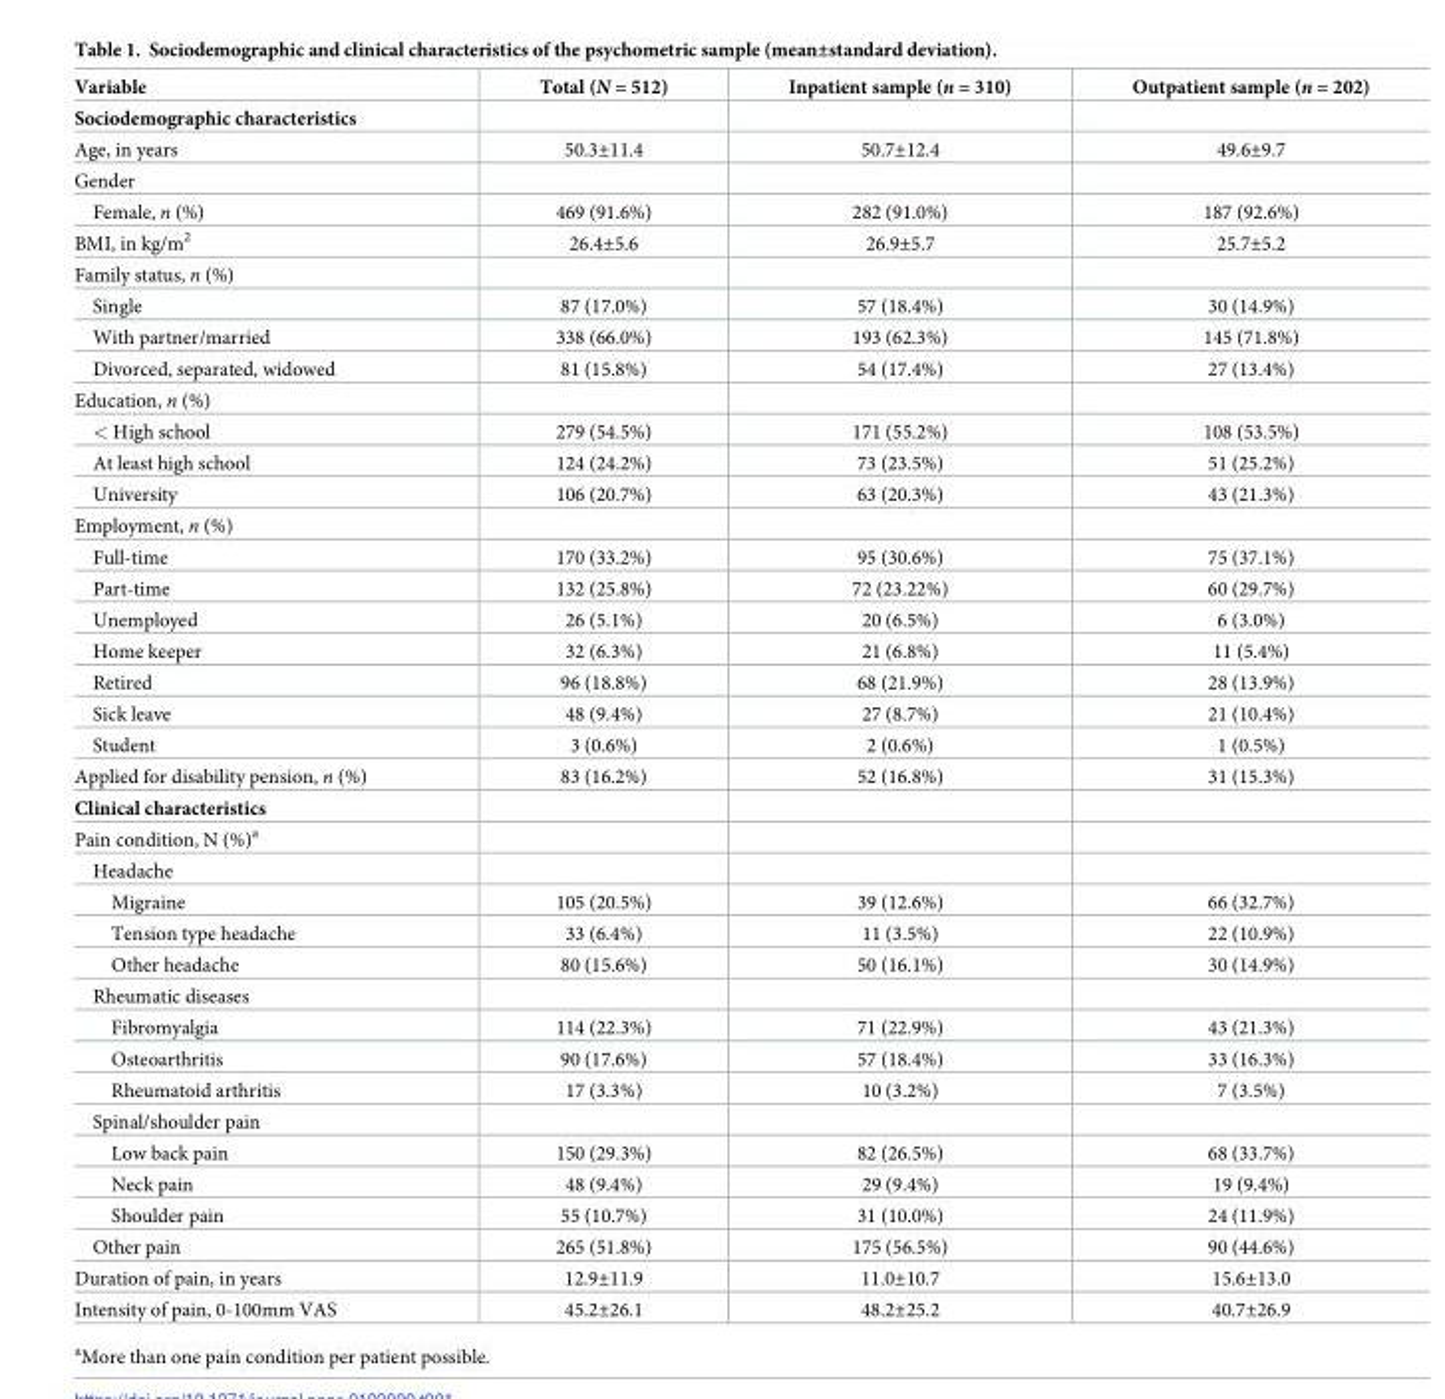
<table><thead><tr><td>Variable</td><td>Total (N = 512)</td><td>Inpatient sample (n = 310)</td><td>Outpatient sample (n = 202)</td></tr></thead><tbody><tr><td colspan="4">Sociodemographic characteristics</td></tr><tr><td>Age, in years</td><td>50.3±11.4</td><td>50.7±12.4</td><td>49.6±9.7</td></tr><tr><td colspan="4">Gender</td></tr><tr><td>Female, n (%)</td><td>469 (91.6%)</td><td>282 (91.0%)</td><td>187 (92.6%)</td></tr><tr><td>BMI, in kg/m<sup>2</sup></td><td>26.4±5.6</td><td>26.9±5.7</td><td>25.7±5.2</td></tr><tr><td colspan="4">Family status, n (%)</td></tr><tr><td>Single</td><td>87 (17.0%)</td><td>57 (18.4%)</td><td>30 (14.9%)</td></tr><tr><td>With partner/married</td><td>338 (66.0%)</td><td>193 (62.3%)</td><td>145 (71.8%)</td></tr><tr><td>Divorced, separated, widowed</td><td>81 (15.8%)</td><td>54 (17.4%)</td><td>27 (13.4%)</td></tr><tr><td colspan="4">Education, n (%)</td></tr><tr><td>&lt; High school</td><td>279 (54.5%)</td><td>171 (55.2%)</td><td>108 (53.5%)</td></tr><tr><td>At least high school</td><td>124 (24.2%)</td><td>73 (23.5%)</td><td>51 (25.2%)</td></tr><tr><td>University</td><td>106 (20.7%)</td><td>63 (20.3%)</td><td>43 (21.3%)</td></tr><tr><td colspan="4">Employment, n (%)</td></tr><tr><td>Full-time</td><td>170 (33.2%)</td><td>95 (30.6%)</td><td>75 (37.1%)</td></tr><tr><td>Part-time</td><td>132 (25.8%)</td><td>72 (23.22%)</td><td>60 (29.7%)</td></tr><tr><td>Unemployed</td><td>26 (5.1%)</td><td>20 (6.5%)</td><td>6 (3.0%)</td></tr><tr><td>Home keeper</td><td>32 (6.3%)</td><td>21 (6.8%)</td><td>11 (5.4%)</td></tr><tr><td>Retired</td><td>96 (18.8%)</td><td>68 (21.9%)</td><td>28 (13.9%)</td></tr><tr><td>Sick leave</td><td>48 (9.4%)</td><td>27 (8.7%)</td><td>21 (10.4%)</td></tr><tr><td>Student</td><td>3 (0.6%)</td><td>2 (0.6%)</td><td>1 (0.5%)</td></tr><tr><td>Applied for disability pension, n (%)</td><td>83 (16.2%)</td><td>52 (16.8%)</td><td>31 (15.3%)</td></tr><tr><td colspan="4">Clinical characteristics</td></tr><tr><td colspan="4">Pain condition, N (%)<sup>a</sup></td></tr><tr><td colspan="4">Headache</td></tr><tr><td>Migraine</td><td>105 (20.5%)</td><td>39 (12.6%)</td><td>66 (32.7%)</td></tr><tr><td>Tension type headache</td><td>33 (6.4%)</td><td>11 (3.5%)</td><td>22 (10.9%)</td></tr><tr><td>Other headache</td><td>80 (15.6%)</td><td>50 (16.1%)</td><td>30 (14.9%)</td></tr><tr><td colspan="4">Rheumatic diseases</td></tr><tr><td>Fibromyalgia</td><td>114 (22.3%)</td><td>71 (22.9%)</td><td>43 (21.3%)</td></tr><tr><td>Osteoarthritis</td><td>90 (17.6%)</td><td>57 (18.4%)</td><td>33 (16.3%)</td></tr><tr><td>Rheumatoid arthritis</td><td>17 (3.3%)</td><td>10 (3.2%)</td><td>7 (3.5%)</td></tr><tr><td colspan="4">Spinal/shoulder pain</td></tr><tr><td>Low back pain</td><td>150 (29.3%)</td><td>82 (26.5%)</td><td>68 (33.7%)</td></tr><tr><td>Neck pain</td><td>48 (9.4%)</td><td>29 (9.4%)</td><td>19 (9.4%)</td></tr><tr><td>Shoulder pain</td><td>55 (10.7%)</td><td>31 (10.0%)</td><td>24 (11.9%)</td></tr><tr><td>Other pain</td><td>265 (51.8%)</td><td>175 (56.5%)</td><td>90 (44.6%)</td></tr><tr><td>Duration of pain, in years</td><td>12.9±11.9</td><td>11.0±10.7</td><td>15.6±13.0</td></tr><tr><td>Intensity of pain, 0-100mm VAS</td><td>45.2±26.1</td><td>48.2±25.2</td><td>40.7±26.9</td></tr></tbody></table>